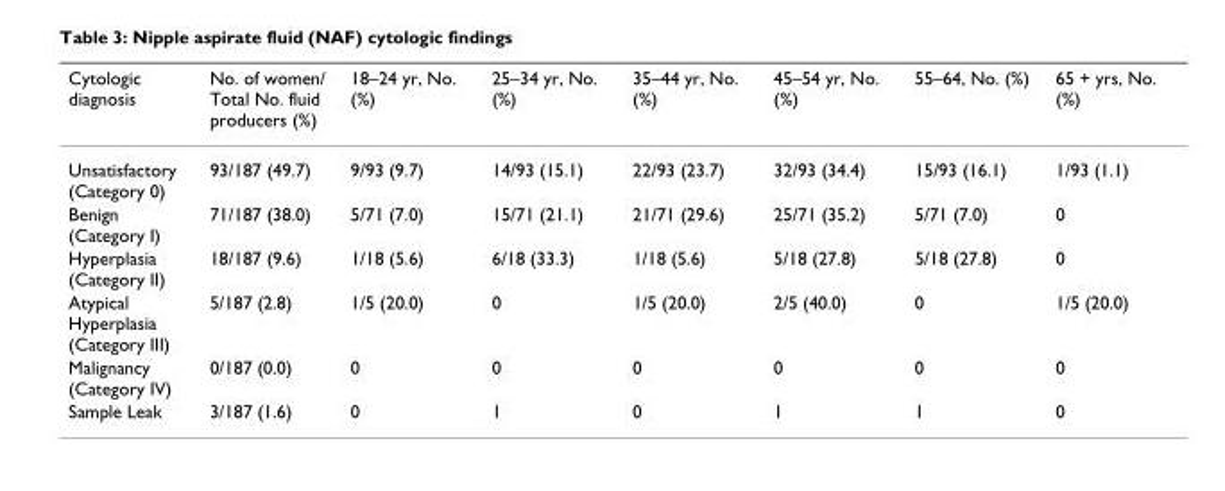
<table><thead><tr><td>Cytologic diagnosis</td><td>No. of women/ Total No. fluid producers (%)</td><td>18–24 yr, No. (%)</td><td>25–34 yr, No. (%)</td><td>35–44 yr, No. (%)</td><td>45–54 yr, No. (%)</td><td>55–64, No. (%)</td><td>65 + yrs, No. (%)</td></tr></thead><tbody><tr><td>Unsatisfactory (Category 0)</td><td>93/187 (49.7)</td><td>9/93 (9.7)</td><td>14/93 (15.1)</td><td>22/93 (23.7)</td><td>32/93 (34.4)</td><td>15/93 (16.1)</td><td>1/93 (1.1)</td></tr><tr><td>Benign (Category I)</td><td>71/187 (38.0)</td><td>5/71 (7.0)</td><td>15/71 (21.1)</td><td>21/71 (29.6)</td><td>25/71 (35.2)</td><td>5/71 (7.0)</td><td>0</td></tr><tr><td>Hyperplasia (Category II)</td><td>18/187 (9.6)</td><td>1/18 (5.6)</td><td>6/18 (33.3)</td><td>1/18 (5.6)</td><td>5/18 (27.8)</td><td>5/18 (27.8)</td><td>0</td></tr><tr><td>Atypical Hyperplasia (Category III)</td><td>5/187 (2.8)</td><td>1/5 (20.0)</td><td>0</td><td>1/5 (20.0)</td><td>2/5 (40.0)</td><td>0</td><td>1/5 (20.0)</td></tr><tr><td>Malignancy (Category IV)</td><td>0/187 (0.0)</td><td>0</td><td>0</td><td>0</td><td>0</td><td>0</td><td>0</td></tr><tr><td>Sample Leak</td><td>3/187 (1.6)</td><td>0</td><td>1</td><td>0</td><td>1</td><td>1</td><td>0</td></tr></tbody></table>